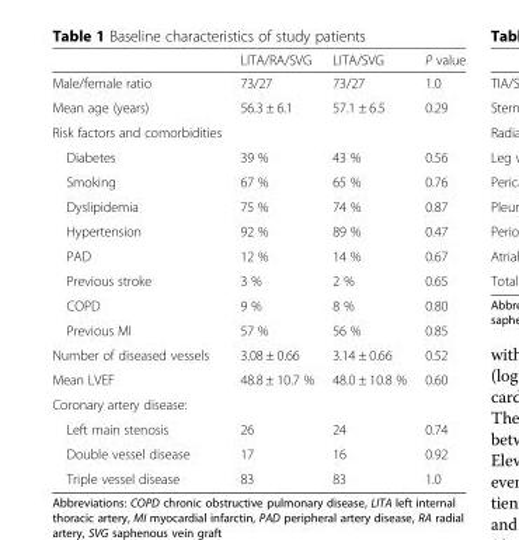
<table><thead><tr><td></td><td>LITA/RA/SVG</td><td>LITA/SVG</td><td>P value</td></tr></thead><tbody><tr><td>Male/female ratio</td><td>73/27</td><td>73/27</td><td>1.0</td></tr><tr><td>Mean age (years)</td><td>56.3 ± 6.1</td><td>57.1 ± 6.5</td><td>0.29</td></tr><tr><td colspan="4">Risk factors and comorbidities</td></tr><tr><td>Diabetes</td><td>39 %</td><td>43 %</td><td>0.56</td></tr><tr><td>Smoking</td><td>67 %</td><td>65 %</td><td>0.76</td></tr><tr><td>Dyslipidemia</td><td>75 %</td><td>74 %</td><td>0.87</td></tr><tr><td>Hypertension</td><td>92 %</td><td>89 %</td><td>0.47</td></tr><tr><td>PAD</td><td>12 %</td><td>14 %</td><td>0.67</td></tr><tr><td>Previous stroke</td><td>3 %</td><td>2 %</td><td>0.65</td></tr><tr><td>COPD</td><td>9 %</td><td>8 %</td><td>0.80</td></tr><tr><td>Previous MI</td><td>57 %</td><td>56 %</td><td>0.85</td></tr><tr><td>Number of diseased vessels</td><td>3.08 ± 0.66</td><td>3.14 ± 0.66</td><td>0.52</td></tr><tr><td>Mean LVEF</td><td>48.8 ± 10.7 %</td><td>48.0 ± 10.8 %</td><td>0.60</td></tr><tr><td colspan="4">Coronary artery disease:</td></tr><tr><td>Left main stenosis</td><td>26</td><td>24</td><td>0.74</td></tr><tr><td>Double vessel disease</td><td>17</td><td>16</td><td>0.92</td></tr><tr><td>Triple vessel disease</td><td>83</td><td>83</td><td>1.0</td></tr></tbody></table>